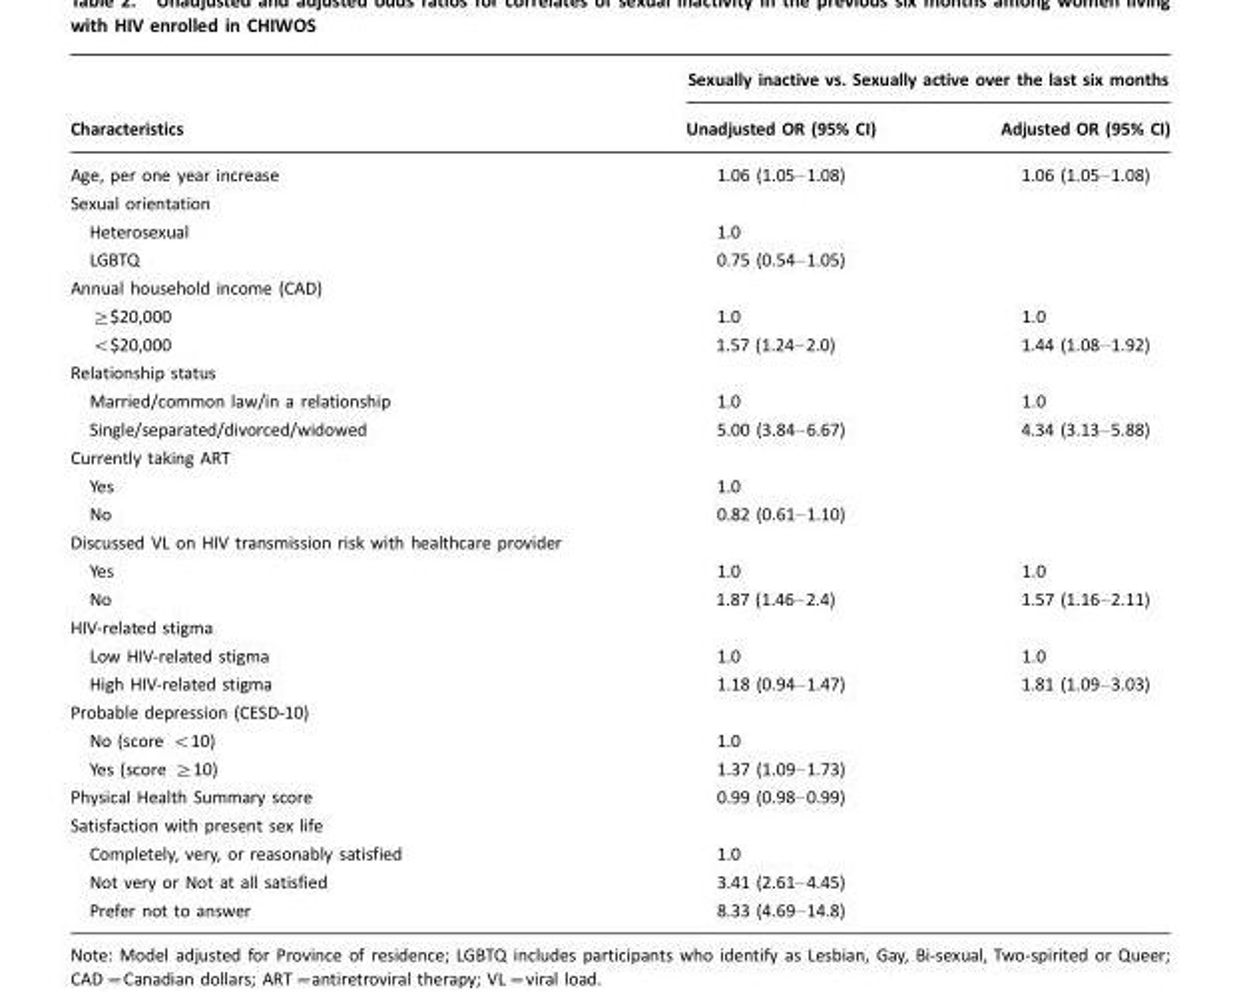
<table><thead><tr><td rowspan="2">Characteristics</td><td colspan="2">Sexually inactive vs. Sexually active over the last six months</td></tr><tr><td>Unadjusted OR (95% CI)</td><td>Adjusted OR (95% CI)</td></tr></thead><tbody><tr><td>Age, per one year increase</td><td>1.06 (1.05–1.08)</td><td>1.06 (1.05–1.08)</td></tr><tr><td colspan="3">Sexual orientation</td></tr><tr><td>Heterosexual</td><td>1.0</td><td></td></tr><tr><td>LGBTQ</td><td>0.75 (0.54–1.05)</td><td></td></tr><tr><td colspan="3">Annual household income (CAD)</td></tr><tr><td>≥$20,000</td><td>1.0</td><td>1.0</td></tr><tr><td>&lt;$20,000</td><td>1.57 (1.24–2.0)</td><td>1.44 (1.08–1.92)</td></tr><tr><td colspan="3">Relationship status</td></tr><tr><td>Married/common law/in a relationship</td><td>1.0</td><td>1.0</td></tr><tr><td>Single/separated/divorced/widowed</td><td>5.00 (3.84–6.67)</td><td>4.34 (3.13–5.88)</td></tr><tr><td colspan="3">Currently taking ART</td></tr><tr><td>Yes</td><td>1.0</td><td></td></tr><tr><td>No</td><td>0.82 (0.61–1.10)</td><td></td></tr><tr><td colspan="3">Discussed VL on HIV transmission risk with healthcare provider</td></tr><tr><td>Yes</td><td>1.0</td><td>1.0</td></tr><tr><td>No</td><td>1.87 (1.46–2.4)</td><td>1.57 (1.16–2.11)</td></tr><tr><td colspan="3">HIV-related stigma</td></tr><tr><td>Low HIV-related stigma</td><td>1.0</td><td>1.0</td></tr><tr><td>High HIV-related stigma</td><td>1.18 (0.94–1.47)</td><td>1.81 (1.09–3.03)</td></tr><tr><td colspan="3">Probable depression (CESD-10)</td></tr><tr><td>No (score &lt;10)</td><td>1.0</td><td></td></tr><tr><td>Yes (score ≥10)</td><td>1.37 (1.09–1.73)</td><td></td></tr><tr><td>Physical Health Summary score</td><td>0.99 (0.98–0.99)</td><td></td></tr><tr><td colspan="3">Satisfaction with present sex life</td></tr><tr><td>Completely, very, or reasonably satisfied</td><td>1.0</td><td></td></tr><tr><td>Not very or Not at all satisfied</td><td>3.41 (2.61–4.45)</td><td></td></tr><tr><td>Prefer not to answer</td><td>8.33 (4.69–14.8)</td><td></td></tr></tbody></table>